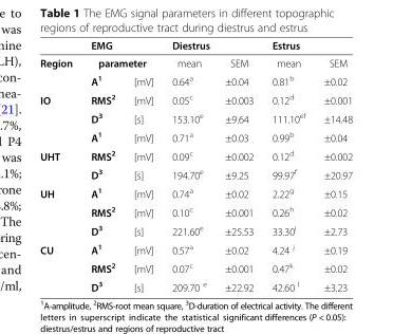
<table><thead><tr><td rowspan="3">Region</td><td rowspan="2" colspan="2">EMG parameter</td><td colspan="2">Diestrus</td><td colspan="2">Estrus</td></tr><tr><td rowspan="2">mean 0.64<sup>a</sup></td><td rowspan="2">SEM ±0.04</td><td rowspan="2">mean 0.81<sup>b</sup></td><td rowspan="2">SEM ±0.02</td></tr><tr><td>A<sup>1</sup></td><td>[mV]</td></tr></thead><tbody><tr><td rowspan="3">IO</td><td>RMS<sup>2</sup></td><td>[mV]</td><td>0.05<sup>c</sup></td><td>±0.003</td><td>0.12<sup>d</sup></td><td>±0.001</td></tr><tr><td>D<sup>3</sup></td><td>[s]</td><td>153.10<sup>e</sup></td><td>±9.64</td><td>111.10<sup>ef</sup></td><td>±14.48</td></tr><tr><td>A<sup>1</sup></td><td>[mV]</td><td>0.71<sup>a</sup></td><td>±0.03</td><td>0.99<sup>b</sup></td><td>±0.04</td></tr><tr><td rowspan="2">UHT</td><td>RMS<sup>2</sup></td><td>[mV]</td><td>0.09<sup>c</sup></td><td>±0.002</td><td>0.12<sup>d</sup></td><td>±0.002</td></tr><tr><td>D<sup>3</sup></td><td>[s]</td><td>194.70<sup>e</sup></td><td>±9.25</td><td>99.97<sup>f</sup></td><td>±20.97</td></tr><tr><td rowspan="3">UH</td><td>A<sup>1</sup></td><td>[mV]</td><td>0.74<sup>a</sup></td><td>±0.02</td><td>2.22<sup>g</sup></td><td>±0.15</td></tr><tr><td>RMS<sup>2</sup></td><td>[mV]</td><td>0.10<sup>c</sup></td><td>±0.001</td><td>0.26<sup>h</sup></td><td>±0.02</td></tr><tr><td>D<sup>3</sup></td><td>[s]</td><td>221.60<sup>e</sup></td><td>±25.53</td><td>33.30<sup>i</sup></td><td>±2.73</td></tr><tr><td rowspan="3">CU</td><td>A<sup>1</sup></td><td>[mV]</td><td>0.57<sup>a</sup></td><td>±0.02</td><td>4.24 <sup>j</sup></td><td>±0.19</td></tr><tr><td>RMS<sup>2</sup></td><td>[mV]</td><td>0.07<sup>c</sup></td><td>±0.001</td><td>0.47<sup>k</sup></td><td>±0.02</td></tr><tr><td>D<sup>3</sup></td><td>[s]</td><td>209.70 <sup>e</sup></td><td>±22.92</td><td>42.60 <sup>l</sup></td><td>±3.23</td></tr></tbody></table>